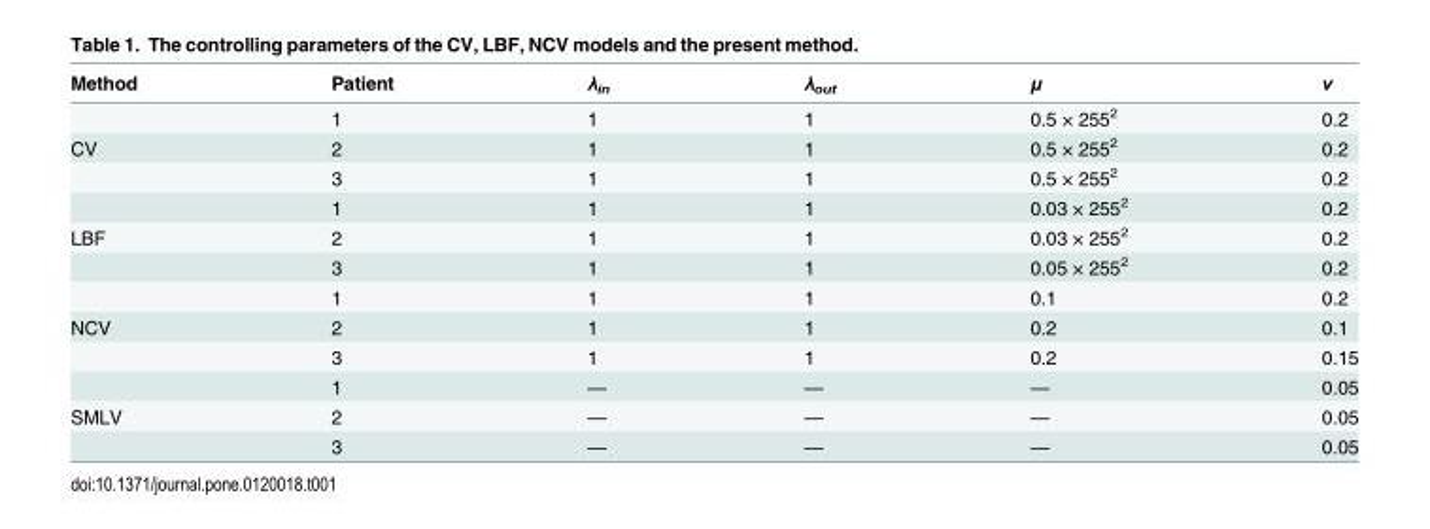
<table><thead><tr><td>Method</td><td>Patient</td><td>λ<sub>in</sub></td><td>λ<sub>out</sub></td><td>μ</td><td>ν</td></tr></thead><tbody><tr><td></td><td>1</td><td>1</td><td>1</td><td>0.5 × 255<sup>2</sup></td><td>0.2</td></tr><tr><td rowspan="3">CV</td><td>2</td><td>1</td><td>1</td><td>0.5 × 255<sup>2</sup></td><td>0.2</td></tr><tr><td>3</td><td>1</td><td>1</td><td>0.5 × 255<sup>2</sup></td><td>0.2</td></tr><tr><td>1</td><td>1</td><td>1</td><td>0.03 × 255<sup>2</sup></td><td>0.2</td></tr><tr><td rowspan="3">LBF</td><td>2</td><td>1</td><td>1</td><td>0.03 × 255<sup>2</sup></td><td>0.2</td></tr><tr><td>3</td><td>1</td><td>1</td><td>0.05 × 255<sup>2</sup></td><td>0.2</td></tr><tr><td>1</td><td>1</td><td>1</td><td>0.1</td><td>0.2</td></tr><tr><td rowspan="3">NCV</td><td>2</td><td>1</td><td>1</td><td>0.2</td><td>0.1</td></tr><tr><td>3</td><td>1</td><td>1</td><td>0.2</td><td>0.15</td></tr><tr><td>1</td><td>—</td><td>—</td><td>—</td><td>0.05</td></tr><tr><td rowspan="2">SMLV</td><td>2</td><td>—</td><td>—</td><td>—</td><td>0.05</td></tr><tr><td>3</td><td>—</td><td>—</td><td>—</td><td>0.05</td></tr></tbody></table>